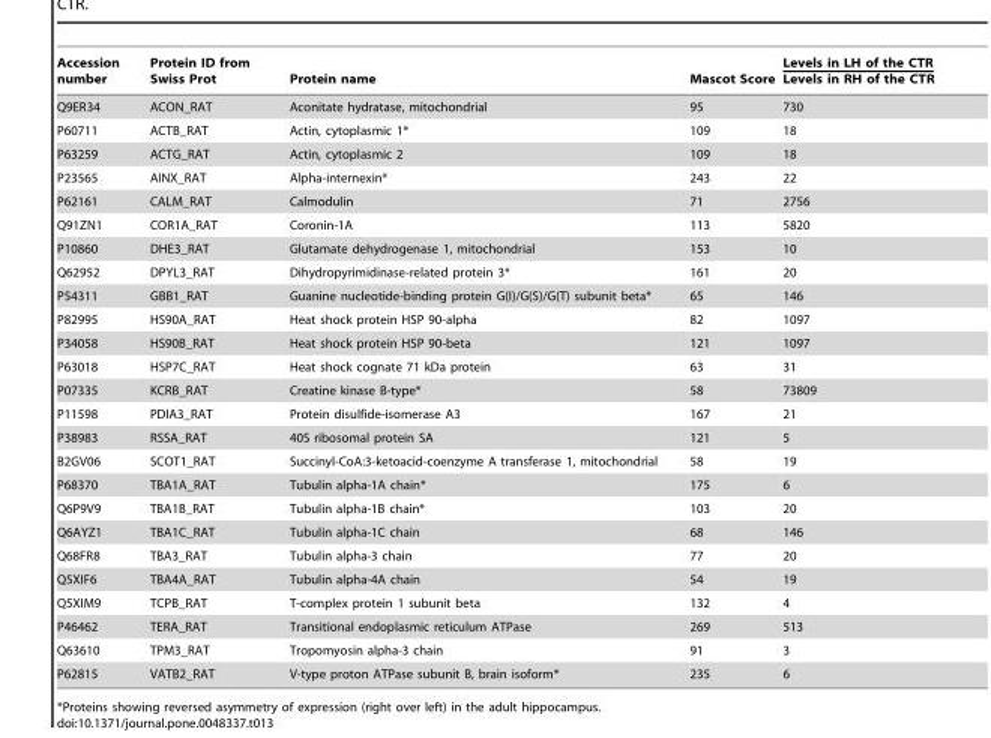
<table><thead><tr><td>Accession number</td><td>Protein ID from Swiss Prot</td><td>Protein name</td><td>Mascot Score</td><td>Levels in LH of the CTR Levels in RH of the CTR</td></tr></thead><tbody><tr><td>Q9ER34</td><td>ACON_RAT</td><td>Aconitate hydratase, mitochondrial</td><td>95</td><td>730</td></tr><tr><td>P60711</td><td>ACTB_RAT</td><td>Actin, cytoplasmic 1*</td><td>109</td><td>18</td></tr><tr><td>P63259</td><td>ACTG_RAT</td><td>Actin, cytoplasmic 2</td><td>109</td><td>18</td></tr><tr><td>P23565</td><td>AINX_RAT</td><td>Alpha-internexin*</td><td>243</td><td>22</td></tr><tr><td>P62161</td><td>CALM_RAT</td><td>Calmodulin</td><td>71</td><td>2756</td></tr><tr><td>Q91ZN1</td><td>COR1A_RAT</td><td>Coronin-1A</td><td>113</td><td>5820</td></tr><tr><td>P10860</td><td>DHE3_RAT</td><td>Glutamate dehydrogenase 1, mitochondrial</td><td>153</td><td>10</td></tr><tr><td>Q62952</td><td>DPYL3_RAT</td><td>Dihydropyrimidinase-related protein 3*</td><td>161</td><td>20</td></tr><tr><td>P54311</td><td>GBB1_RAT</td><td>Guanine nucleotide-binding protein G(I)/G(S)/G(T) subunit beta*</td><td>65</td><td>146</td></tr><tr><td>P82995</td><td>HS90A_RAT</td><td>Heat shock protein HSP 90-alpha</td><td>82</td><td>1097</td></tr><tr><td>P34058</td><td>HS90B_RAT</td><td>Heat shock protein HSP 90-beta</td><td>121</td><td>1097</td></tr><tr><td>P63018</td><td>HSP7C_RAT</td><td>Heat shock cognate 71 kDa protein</td><td>63</td><td>31</td></tr><tr><td>P07335</td><td>KCRB_RAT</td><td>Creatine kinase B-type*</td><td>58</td><td>73809</td></tr><tr><td>P11598</td><td>PDIA3_RAT</td><td>Protein disulfide-isomerase A3</td><td>167</td><td>21</td></tr><tr><td>P38983</td><td>RSSA_RAT</td><td>40S ribosomal protein SA</td><td>121</td><td>5</td></tr><tr><td>B2GV06</td><td>SCOT1_RAT</td><td>Succinyl-CoA:3-ketoacid-coenzyme A transferase 1, mitochondrial</td><td>58</td><td>19</td></tr><tr><td>P68370</td><td>TBA1A_RAT</td><td>Tubulin alpha-1A chain*</td><td>175</td><td>6</td></tr><tr><td>Q6P9V9</td><td>TBA1B_RAT</td><td>Tubulin alpha-1B chain*</td><td>103</td><td>20</td></tr><tr><td>Q6AYZ1</td><td>TBA1C_RAT</td><td>Tubulin alpha-1C chain</td><td>68</td><td>146</td></tr><tr><td>Q68FR8</td><td>TBA3_RAT</td><td>Tubulin alpha-3 chain</td><td>77</td><td>20</td></tr><tr><td>Q5XIF6</td><td>TBA4A_RAT</td><td>Tubulin alpha-4A chain</td><td>54</td><td>19</td></tr><tr><td>Q5XIM9</td><td>TCPB_RAT</td><td>T-complex protein 1 subunit beta</td><td>132</td><td>4</td></tr><tr><td>P46462</td><td>TERA_RAT</td><td>Transitional endoplasmic reticulum ATPase</td><td>269</td><td>513</td></tr><tr><td>Q63610</td><td>TPM3_RAT</td><td>Tropomyosin alpha-3 chain</td><td>91</td><td>3</td></tr><tr><td>P62815</td><td>VATB2_RAT</td><td>V-type proton ATPase subunit B, brain isoform*</td><td>235</td><td>6</td></tr></tbody></table>